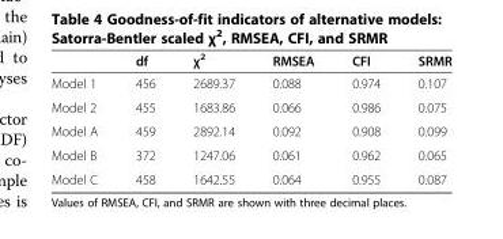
<table><thead><tr><td></td><td>df</td><td>χ<sup>2</sup></td><td>RMSEA</td><td>CFI</td><td>SRMR</td></tr></thead><tbody><tr><td>Model 1</td><td>456</td><td>2689.37</td><td>0.088</td><td>0.974</td><td>0.107</td></tr><tr><td>Model 2</td><td>455</td><td>1683.86</td><td>0.066</td><td>0.986</td><td>0.075</td></tr><tr><td>Model A</td><td>459</td><td>2892.14</td><td>0.092</td><td>0.908</td><td>0.099</td></tr><tr><td>Model B</td><td>372</td><td>1247.06</td><td>0.061</td><td>0.962</td><td>0.065</td></tr><tr><td>Model C</td><td>458</td><td>1642.55</td><td>0.064</td><td>0.955</td><td>0.087</td></tr></tbody></table>